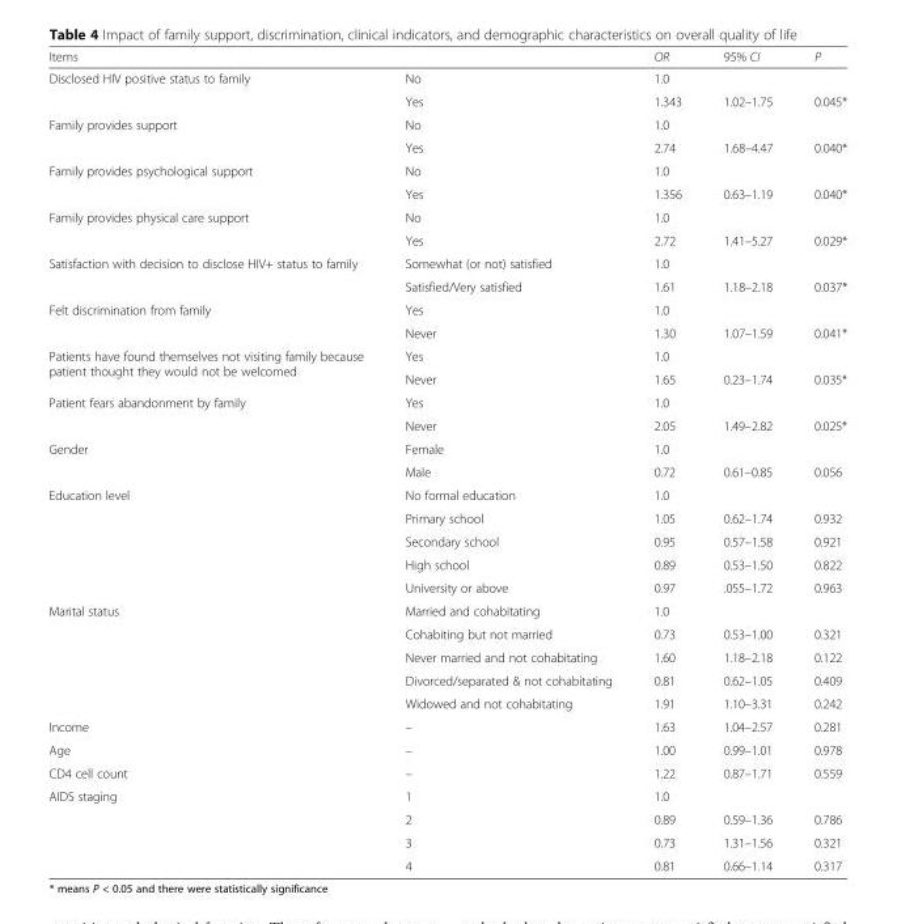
<table><thead><tr><td>Items</td><td></td><td>OR</td><td>95% CI</td><td>P</td></tr></thead><tbody><tr><td rowspan="2">Disclosed HIV positive status to family</td><td>No</td><td>1.0</td><td></td><td></td></tr><tr><td>Yes</td><td>1.343</td><td>1.02–1.75</td><td>0.045*</td></tr><tr><td rowspan="2">Family provides support</td><td>No</td><td>1.0</td><td></td><td></td></tr><tr><td>Yes</td><td>2.74</td><td>1.68–4.47</td><td>0.040*</td></tr><tr><td rowspan="2">Family provides psychological support</td><td>No</td><td>1.0</td><td></td><td></td></tr><tr><td>Yes</td><td>1.356</td><td>0.63–1.19</td><td>0.040*</td></tr><tr><td rowspan="2">Family provides physical care support</td><td>No</td><td>1.0</td><td></td><td></td></tr><tr><td>Yes</td><td>2.72</td><td>1.41–5.27</td><td>0.029*</td></tr><tr><td rowspan="2">Satisfaction with decision to disclose HIV+ status to family</td><td>Somewhat (or not) satisfied</td><td>1.0</td><td></td><td></td></tr><tr><td>Satisfied/Very satisfied</td><td>1.61</td><td>1.18–2.18</td><td>0.037*</td></tr><tr><td rowspan="2">Felt discrimination from family</td><td>Yes</td><td>1.0</td><td></td><td></td></tr><tr><td>Never</td><td>1.30</td><td>1.07–1.59</td><td>0.041*</td></tr><tr><td rowspan="2">Patients have found themselves not visiting family because patient thought they would not be welcomed</td><td>Yes</td><td>1.0</td><td></td><td></td></tr><tr><td>Never</td><td>1.65</td><td>0.23–1.74</td><td>0.035*</td></tr><tr><td rowspan="2">Patient fears abandonment by family</td><td>Yes</td><td>1.0</td><td></td><td></td></tr><tr><td>Never</td><td>2.05</td><td>1.49–2.82</td><td>0.025*</td></tr><tr><td rowspan="2">Gender</td><td>Female</td><td>1.0</td><td></td><td></td></tr><tr><td>Male</td><td>0.72</td><td>0.61–0.85</td><td>0.056</td></tr><tr><td rowspan="5">Education level</td><td>No formal education</td><td>1.0</td><td></td><td></td></tr><tr><td>Primary school</td><td>1.05</td><td>0.62–1.74</td><td>0.932</td></tr><tr><td>Secondary school</td><td>0.95</td><td>0.57–1.58</td><td>0.921</td></tr><tr><td>High school</td><td>0.89</td><td>0.53–1.50</td><td>0.822</td></tr><tr><td>University or above</td><td>0.97</td><td>.055–1.72</td><td>0.963</td></tr><tr><td rowspan="5">Marital status</td><td>Married and cohabitating</td><td>1.0</td><td></td><td></td></tr><tr><td>Cohabiting but not married</td><td>0.73</td><td>0.53–1.00</td><td>0.321</td></tr><tr><td>Never married and not cohabitating</td><td>1.60</td><td>1.18–2.18</td><td>0.122</td></tr><tr><td>Divorced/separated &amp; not cohabitating</td><td>0.81</td><td>0.62–1.05</td><td>0.409</td></tr><tr><td>Widowed and not cohabitating</td><td>1.91</td><td>1.10–3.31</td><td>0.242</td></tr><tr><td>Income</td><td>–</td><td>1.63</td><td>1.04–2.57</td><td>0.281</td></tr><tr><td>Age</td><td>–</td><td>1.00</td><td>0.99–1.01</td><td>0.978</td></tr><tr><td>CD4 cell count</td><td>–</td><td>1.22</td><td>0.87–1.71</td><td>0.559</td></tr><tr><td rowspan="4">AIDS staging</td><td>1</td><td>1.0</td><td></td><td></td></tr><tr><td>2</td><td>0.89</td><td>0.59–1.36</td><td>0.786</td></tr><tr><td>3</td><td>0.73</td><td>1.31–1.56</td><td>0.321</td></tr><tr><td>4</td><td>0.81</td><td>0.66–1.14</td><td>0.317</td></tr></tbody></table>